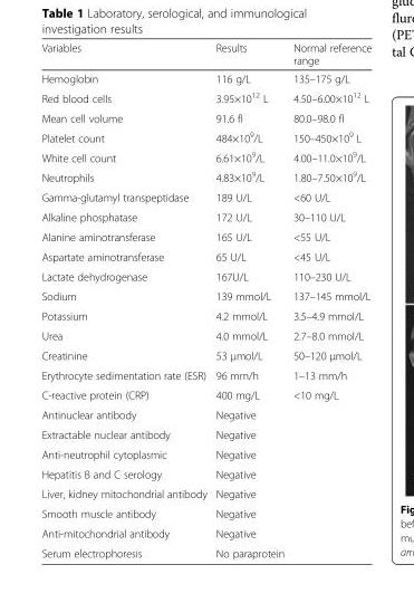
<table><thead><tr><td>Variables</td><td>Results</td><td>Normal reference range</td></tr></thead><tbody><tr><td>Hemoglobin</td><td>116 g/L</td><td>135–175 g/L</td></tr><tr><td>Red blood cells</td><td>3.95×10<sup>12</sup> L</td><td>4.50–6.00×10<sup>12</sup> L</td></tr><tr><td>Mean cell volume</td><td>91.6 fl</td><td>80.0–98.0 fl</td></tr><tr><td>Platelet count</td><td>484×10<sup>9</sup>/L</td><td>150–450×10<sup>9</sup> L</td></tr><tr><td>White cell count</td><td>6.61×10<sup>9</sup>/L</td><td>4.00–11.0×10<sup>9</sup>/L</td></tr><tr><td>Neutrophils</td><td>4.83×10<sup>9</sup>/L</td><td>1.80–7.50×10<sup>9</sup>/L</td></tr><tr><td>Gamma-glutamyl transpeptidase</td><td>189 U/L</td><td>&lt;60 U/L</td></tr><tr><td>Alkaline phosphatase</td><td>172 U/L</td><td>30–110 U/L</td></tr><tr><td>Alanine aminotransferase</td><td>165 U/L</td><td>&lt;55 U/L</td></tr><tr><td>Aspartate aminotransferase</td><td>65 U/L</td><td>&lt;45 U/L</td></tr><tr><td>Lactate dehydrogenase</td><td>167U/L</td><td>110–230 U/L</td></tr><tr><td>Sodium</td><td>139 mmol/L</td><td>137–145 mmol/L</td></tr><tr><td>Potassium</td><td>4.2 mmol/L</td><td>3.5–4.9 mmol/L</td></tr><tr><td>Urea</td><td>4.0 mmol/L</td><td>2.7–8.0 mmol/L</td></tr><tr><td>Creatinine</td><td>53 μmol/L</td><td>50–120 μmol/L</td></tr><tr><td>Erythrocyte sedimentation rate (ESR)</td><td>96 mm/h</td><td>1–13 mm/h</td></tr><tr><td>C-reactive protein (CRP)</td><td>400 mg/L</td><td>&lt;10 mg/L</td></tr><tr><td>Antinuclear antibody</td><td>Negative</td><td></td></tr><tr><td>Extractable nuclear antibody</td><td>Negative</td><td></td></tr><tr><td>Anti-neutrophil cytoplasmic</td><td>Negative</td><td></td></tr><tr><td>Hepatitis B and C serology</td><td>Negative</td><td></td></tr><tr><td>Liver, kidney mitochondrial antibody</td><td>Negative</td><td></td></tr><tr><td>Smooth muscle antibody</td><td>Negative</td><td></td></tr><tr><td>Anti-mitochondrial antibody</td><td>Negative</td><td></td></tr><tr><td>Serum electrophoresis</td><td>No paraprotein</td><td></td></tr></tbody></table>